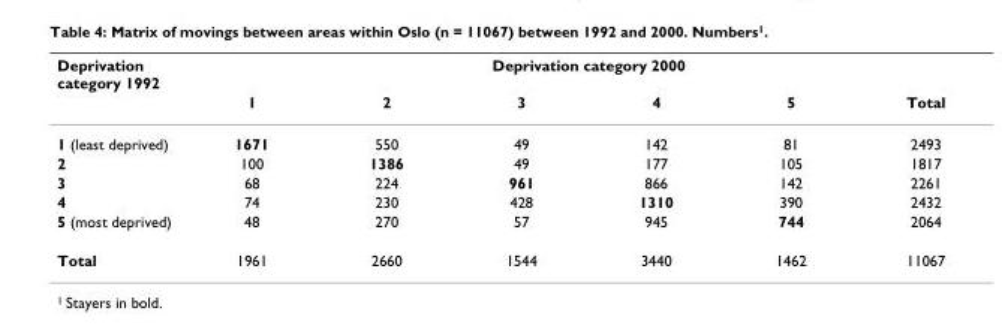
<table><thead><tr><td rowspan="2">Deprivation category 1992</td><td colspan="6">Deprivation category 2000</td></tr><tr><td>1</td><td>2</td><td>3</td><td>4</td><td>5</td><td>Total</td></tr></thead><tbody><tr><td>1 (least deprived)</td><td>1671</td><td>550</td><td>49</td><td>142</td><td>81</td><td>2493</td></tr><tr><td>2</td><td>100</td><td>1386</td><td>49</td><td>177</td><td>105</td><td>1817</td></tr><tr><td>3</td><td>68</td><td>224</td><td>961</td><td>866</td><td>142</td><td>2261</td></tr><tr><td>4</td><td>74</td><td>230</td><td>428</td><td>1310</td><td>390</td><td>2432</td></tr><tr><td>5 (most deprived)</td><td>48</td><td>270</td><td>57</td><td>945</td><td>744</td><td>2064</td></tr><tr><td>Total</td><td>1961</td><td>2660</td><td>1544</td><td>3440</td><td>1462</td><td>11067</td></tr></tbody></table>